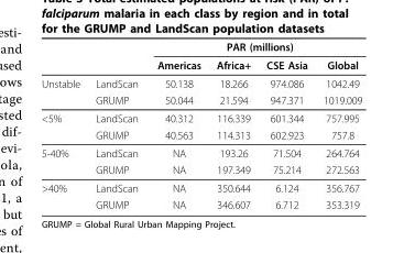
<table><thead><tr><td rowspan="2"></td><td rowspan="2"></td><td colspan="4">PAR (millions)</td></tr><tr><td>Americas</td><td>Africa+</td><td>CSE Asia</td><td>Global</td></tr></thead><tbody><tr><td rowspan="2">Unstable</td><td>LandScan</td><td>50.138</td><td>18.266</td><td>974.086</td><td>1042.49</td></tr><tr><td>GRUMP</td><td>50.044</td><td>21.594</td><td>947.371</td><td>1019.009</td></tr><tr><td rowspan="2">&lt;5%</td><td>LandScan</td><td>40.312</td><td>116.339</td><td>601.344</td><td>757.995</td></tr><tr><td>GRUMP</td><td>40.563</td><td>114.313</td><td>602.923</td><td>757.8</td></tr><tr><td rowspan="2">5-40%</td><td>LandScan</td><td>NA</td><td>193.26</td><td>71.504</td><td>264.764</td></tr><tr><td>GRUMP</td><td>NA</td><td>197.349</td><td>75.214</td><td>272.563</td></tr><tr><td rowspan="2">&gt;40%</td><td>LandScan</td><td>NA</td><td>350.644</td><td>6.124</td><td>356.767</td></tr><tr><td>GRUMP</td><td>NA</td><td>346.607</td><td>6.712</td><td>353.319</td></tr></tbody></table>